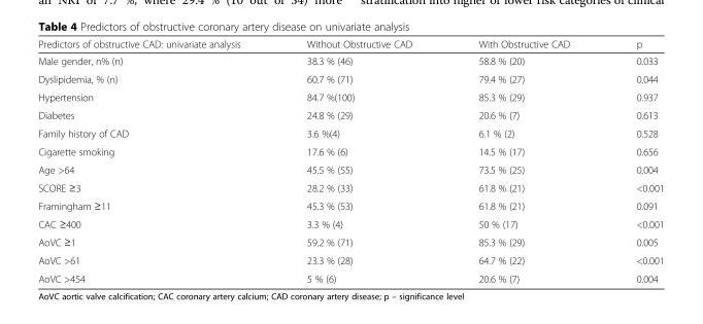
<table><thead><tr><td>Predictors of obstructive CAD: univariate analysis</td><td>Without Obstructive CAD</td><td>With Obstructive CAD</td><td>p</td></tr></thead><tbody><tr><td>Male gender, n% (n)</td><td>38.3 % (46)</td><td>58.8 % (20)</td><td>0.033</td></tr><tr><td>Dyslipidemia, % (n)</td><td>60.7 % (71)</td><td>79.4 % (27)</td><td>0.044</td></tr><tr><td>Hypertension</td><td>84.7 %(100)</td><td>85.3 % (29)</td><td>0.937</td></tr><tr><td>Diabetes</td><td>24.8 % (29)</td><td>20.6 % (7)</td><td>0.613</td></tr><tr><td>Family history of CAD</td><td>3.6 %(4)</td><td>6.1 % (2)</td><td>0.528</td></tr><tr><td>Cigarette smoking</td><td>17.6 % (6)</td><td>14.5 % (17)</td><td>0.656</td></tr><tr><td>Age &gt;64</td><td>45.5 % (55)</td><td>73.5 % (25)</td><td>0.004</td></tr><tr><td>SCORE ≥3</td><td>28.2 % (33)</td><td>61.8 % (21)</td><td>&lt;0.001</td></tr><tr><td>Framingham ≥11</td><td>45.3 % (53)</td><td>61.8 % (21)</td><td>0.091</td></tr><tr><td>CAC ≥400</td><td>3.3 % (4)</td><td>50 % (17)</td><td>&lt;0.001</td></tr><tr><td>AoVC ≥1</td><td>59.2 % (71)</td><td>85.3 % (29)</td><td>0.005</td></tr><tr><td>AoVC &gt;61</td><td>23.3 % (28)</td><td>64.7 % (22)</td><td>&lt;0.001</td></tr><tr><td>AoVC &gt;454</td><td>5 % (6)</td><td>20.6 % (7)</td><td>0.004</td></tr></tbody></table>